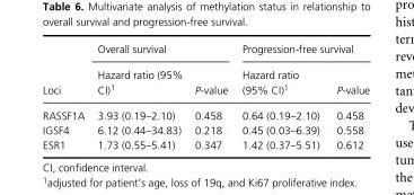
<table><thead><tr><td rowspan="2">Loci</td><td colspan="2">Overall survival</td><td colspan="2">Progression- free survival</td></tr><tr><td>Hazard ratio (95% CI)1</td><td>P- value</td><td>Hazard ratio (95% CI)1</td><td>P- value</td></tr></thead><tbody><tr><td>RASSF1A</td><td>3.93 (0.19–2.10)</td><td>0.458</td><td>0.64 (0.19–2.10)</td><td>0.458</td></tr><tr><td>IGSF4</td><td>6.12 (0.44–34.83)</td><td>0.218</td><td>0.45 (0.03–6.39)</td><td>0.558</td></tr><tr><td>ESR1</td><td>1.73 (0.55–5.41)</td><td>0.347</td><td>1.42 (0.37–5.51)</td><td>0.612</td></tr></tbody></table>